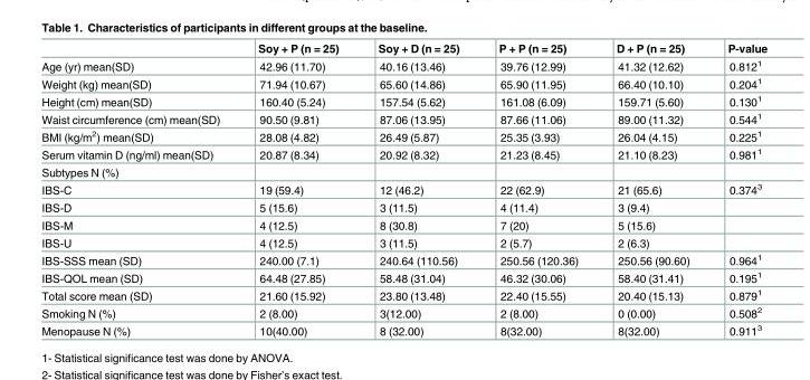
<table><thead><tr><td></td><td>Soy + P (n = 25)</td><td>Soy + D (n = 25)</td><td>P + P (n = 25)</td><td>D + P (n = 25)</td><td>P-value</td></tr></thead><tbody><tr><td>Age (yr) mean(SD)</td><td>42.96 (11.70)</td><td>40.16 (13.46)</td><td>39.76 (12.99)</td><td>41.32 (12.62)</td><td>0.812<sup>1</sup></td></tr><tr><td>Weight (kg) mean(SD)</td><td>71.94 (10.67)</td><td>65.60 (14.86)</td><td>65.90 (11.95)</td><td>66.40 (10.10)</td><td>0.204<sup>1</sup></td></tr><tr><td>Height (cm) mean(SD)</td><td>160.40 (5.24)</td><td>157.54 (5.62)</td><td>161.08 (6.09)</td><td>159.71 (5.60)</td><td>0.130<sup>1</sup></td></tr><tr><td>Waist circumference (cm) mean(SD)</td><td>90.50 (9.81)</td><td>87.06 (13.95)</td><td>87.66 (11.06)</td><td>89.00 (11.32)</td><td>0.544<sup>1</sup></td></tr><tr><td>BMI (kg/m<sup>2</sup>) mean(SD)</td><td>28.08 (4.82)</td><td>26.49 (5.87)</td><td>25.35 (3.93)</td><td>26.04 (4.15)</td><td>0.225<sup>1</sup></td></tr><tr><td>Serum vitamin D (ng/ml) mean(SD)</td><td>20.87 (8.34)</td><td>20.92 (8.32)</td><td>21.23 (8.45)</td><td>21.10 (8.23)</td><td>0.981<sup>1</sup></td></tr><tr><td colspan="6">Subtypes N (%)</td></tr><tr><td>IBS-C</td><td>19 (59.4)</td><td>12 (46.2)</td><td>22 (62.9)</td><td>21 (65.6)</td><td>0.374<sup>3</sup></td></tr><tr><td>IBS-D</td><td>5 (15.6)</td><td>3 (11.5)</td><td>4 (11.4)</td><td>3 (9.4)</td><td></td></tr><tr><td>IBS-M</td><td>4 (12.5)</td><td>8 (30.8)</td><td>7 (20)</td><td>5 (15.6)</td><td></td></tr><tr><td>IBS-U</td><td>4 (12.5)</td><td>3 (11.5)</td><td>2 (5.7)</td><td>2 (6.3)</td><td></td></tr><tr><td>IBS-SSS mean (SD)</td><td>240.00 (7.1)</td><td>240.64 (110.56)</td><td>250.56 (120.36)</td><td>250.56 (90.60)</td><td>0.964<sup>1</sup></td></tr><tr><td>IBS-QOL mean (SD)</td><td>64.48 (27.85)</td><td>58.48 (31.04)</td><td>46.32 (30.06)</td><td>58.40 (31.41)</td><td>0.195<sup>1</sup></td></tr><tr><td>Total score mean (SD)</td><td>21.60 (15.92)</td><td>23.80 (13.48)</td><td>22.40 (15.55)</td><td>20.40 (15.13)</td><td>0.879<sup>1</sup></td></tr><tr><td>Smoking N (%)</td><td>2 (8.00)</td><td>3(12.00)</td><td>2 (8.00)</td><td>0 (0.00)</td><td>0.508<sup>2</sup></td></tr><tr><td>Menopause N (%)</td><td>10(40.00)</td><td>8 (32.00)</td><td>8(32.00)</td><td>8(32.00)</td><td>0.911<sup>3</sup></td></tr></tbody></table>